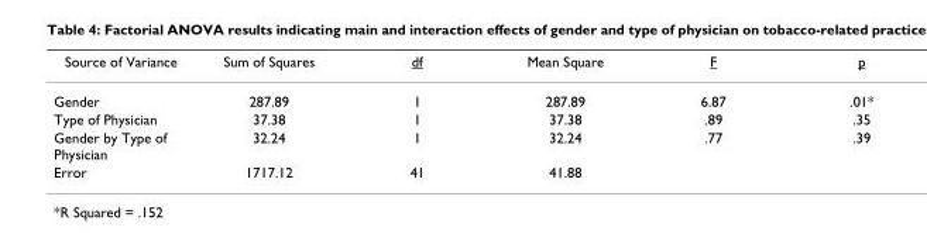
<table><thead><tr><td>Source of Variance</td><td>Sum of Squares</td><td>df</td><td>Mean Square</td><td>F</td><td>p</td></tr></thead><tbody><tr><td>Gender</td><td>287.89</td><td>1</td><td>287.89</td><td>6.87</td><td>.01*</td></tr><tr><td>Type of Physician</td><td>37.38</td><td>1</td><td>37.38</td><td>.89</td><td>.35</td></tr><tr><td>Gender by Type of Physician</td><td>32.24</td><td>1</td><td>32.24</td><td>.77</td><td>.39</td></tr><tr><td>Error</td><td>1717.12</td><td>41</td><td>41.88</td><td></td><td></td></tr></tbody></table>